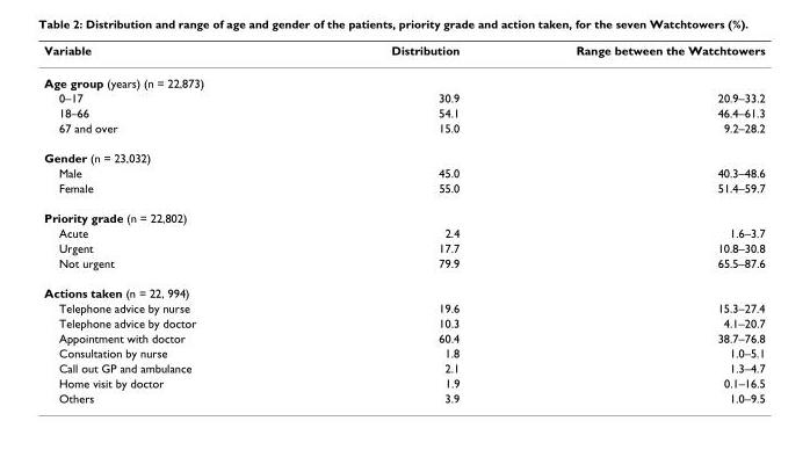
<table><thead><tr><td>Variable</td><td>Distribution</td><td>Range between the Watchtowers</td></tr></thead><tbody><tr><td colspan="3">Age group (years) (n = 22,873)</td></tr><tr><td>0–17</td><td>30.9</td><td>20.9–33.2</td></tr><tr><td>18–66</td><td>54.1</td><td>46.4–61.3</td></tr><tr><td>67 and over</td><td>15.0</td><td>9.2–28.2</td></tr><tr><td colspan="3">Gender (n = 23,032)</td></tr><tr><td>Male</td><td>45.0</td><td>40.3–48.6</td></tr><tr><td>Female</td><td>55.0</td><td>51.4–59.7</td></tr><tr><td colspan="3">Priority grade (n = 22,802)</td></tr><tr><td>Acute</td><td>2.4</td><td>1.6–3.7</td></tr><tr><td>Urgent</td><td>17.7</td><td>10.8–30.8</td></tr><tr><td>Not urgent</td><td>79.9</td><td>65.5–87.6</td></tr><tr><td colspan="3">Actions taken (n = 22, 994)</td></tr><tr><td>Telephone advice by nurse</td><td>19.6</td><td>15.3–27.4</td></tr><tr><td>Telephone advice by doctor</td><td>10.3</td><td>4.1–20.7</td></tr><tr><td>Appointment with doctor</td><td>60.4</td><td>38.7–76.8</td></tr><tr><td>Consultation by nurse</td><td>1.8</td><td>1.0–5.1</td></tr><tr><td>Call out GP and ambulance</td><td>2.1</td><td>1.3–4.7</td></tr><tr><td>Home visit by doctor</td><td>1.9</td><td>0.1–16.5</td></tr><tr><td>Others</td><td>3.9</td><td>1.0–9.5</td></tr></tbody></table>